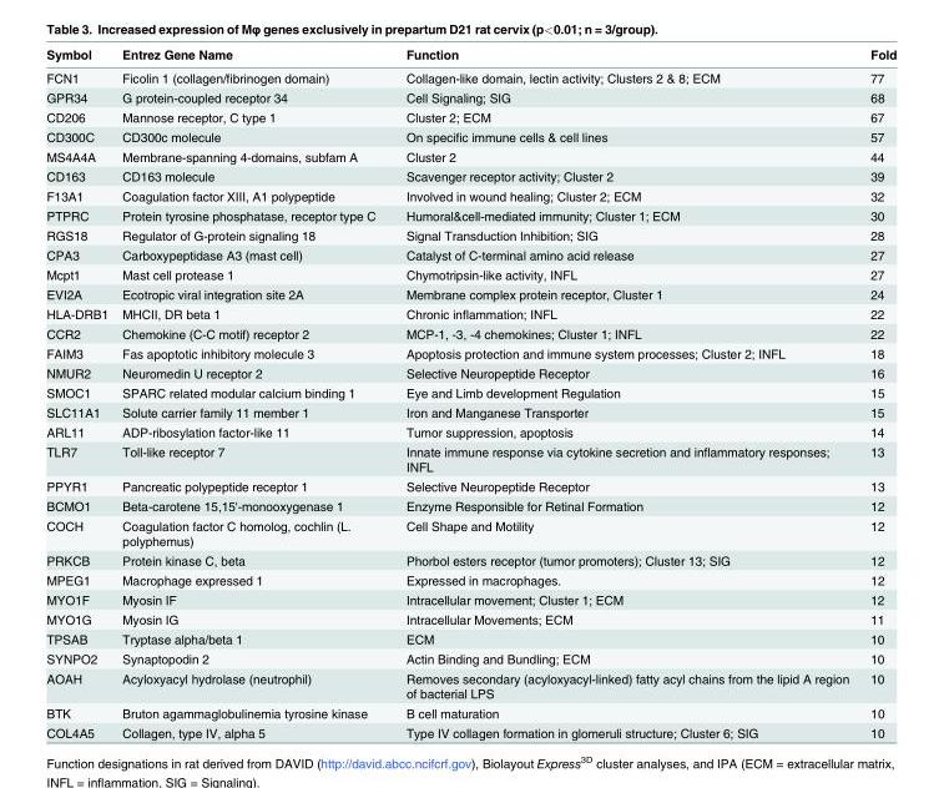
<table><thead><tr><td>Symbol</td><td>Entrez Gene Name</td><td>Function</td><td>Fold</td></tr></thead><tbody><tr><td>FCN1</td><td>Ficolin 1 (collagen/fibrinogen domain)</td><td>Collagen-like domain, lectin activity; Clusters 2 &amp; 8; ECM</td><td>77</td></tr><tr><td>GPR34</td><td>G protein-coupled receptor 34</td><td>Cell Signaling; SIG</td><td>68</td></tr><tr><td>CD206</td><td>Mannose receptor, C type 1</td><td>Cluster 2; ECM</td><td>67</td></tr><tr><td>CD300C</td><td>CD300c molecule</td><td>On specific immune cells &amp; cell lines</td><td>57</td></tr><tr><td>MS4A4A</td><td>Membrane-spanning 4-domains, subfam A</td><td>Cluster 2</td><td>44</td></tr><tr><td>CD163</td><td>CD163 molecule</td><td>Scavenger receptor activity; Cluster 2</td><td>39</td></tr><tr><td>F13A1</td><td>Coagulation factor XIII, A1 polypeptide</td><td>Involved in wound healing; Cluster 2; ECM</td><td>32</td></tr><tr><td>PTPRC</td><td>Protein tyrosine phosphatase, receptor type C</td><td>Humoral&amp;cell-mediated immunity; Cluster 1; ECM</td><td>30</td></tr><tr><td>RGS18</td><td>Regulator of G-protein signaling 18</td><td>Signal Transduction Inhibition; SIG</td><td>28</td></tr><tr><td>CPA3</td><td>Carboxypeptidase A3 (mast cell)</td><td>Catalyst of C-terminal amino acid release</td><td>27</td></tr><tr><td>Mcpt1</td><td>Mast cell protease 1</td><td>Chymotripsin-like activity, INFL</td><td>27</td></tr><tr><td>EVI2A</td><td>Ecotropic viral integration site 2A</td><td>Membrane complex protein receptor, Cluster 1</td><td>24</td></tr><tr><td>HLA-DRB1</td><td>MHCII, DR beta 1</td><td>Chronic inflammation; INFL</td><td>22</td></tr><tr><td>CCR2</td><td>Chemokine (C-C motif) receptor 2</td><td>MCP-1, -3, -4 chemokines; Cluster 1; INFL</td><td>22</td></tr><tr><td>FAIM3</td><td>Fas apoptotic inhibitory molecule 3</td><td>Apoptosis protection and immune system processes; Cluster 2; INFL</td><td>18</td></tr><tr><td>NMUR2</td><td>Neuromedin U receptor 2</td><td>Selective Neuropeptide Receptor</td><td>16</td></tr><tr><td>SMOC1</td><td>SPARC related modular calcium binding 1</td><td>Eye and Limb development Regulation</td><td>15</td></tr><tr><td>SLC11A1</td><td>Solute carrier family 11 member 1</td><td>Iron and Manganese Transporter</td><td>15</td></tr><tr><td>ARL11</td><td>ADP-ribosylation factor-like 11</td><td>Tumor suppression, apoptosis</td><td>14</td></tr><tr><td>TLR7</td><td>Toll-like receptor 7</td><td>Innate immune response via cytokine secretion and inflammatory responses; INFL</td><td>13</td></tr><tr><td>PPYR1</td><td>Pancreatic polypeptide receptor 1</td><td>Selective Neuropeptide Receptor</td><td>13</td></tr><tr><td>BCMO1</td><td>Beta-carotene 15,15&#x27;-monooxygenase 1</td><td>Enzyme Responsible for Retinal Formation</td><td>12</td></tr><tr><td>COCH</td><td>Coagulation factor C homolog, cochlin (L. polyphemus)</td><td>Cell Shape and Motility</td><td>12</td></tr><tr><td>PRKCB</td><td>Protein kinase C, beta</td><td>Phorbol esters receptor (tumor promoters); Cluster 13; SIG</td><td>12</td></tr><tr><td>MPEG1</td><td>Macrophage expressed 1</td><td>Expressed in macrophages.</td><td>12</td></tr><tr><td>MYO1F</td><td>Myosin IF</td><td>Intracellular movement; Cluster 1; ECM</td><td>12</td></tr><tr><td>MYO1G</td><td>Myosin IG</td><td>Intracellular Movements; ECM</td><td>11</td></tr><tr><td>TPSAB</td><td>Tryptase alpha/beta 1</td><td>ECM</td><td>10</td></tr><tr><td>SYNPO2</td><td>Synaptopodin 2</td><td>Actin Binding and Bundling; ECM</td><td>10</td></tr><tr><td>AOAH</td><td>Acyloxyacyl hydrolase (neutrophil)</td><td>Removes secondary (acyloxyacyl-linked) fatty acyl chains from the lipid A region of bacterial LPS</td><td>10</td></tr><tr><td>BTK</td><td>Bruton agammaglobulinemia tyrosine kinase</td><td>B cell maturation</td><td>10</td></tr><tr><td>COL4A5</td><td>Collagen, type IV, alpha 5</td><td>Type IV collagen formation in glomeruli structure; Cluster 6; SIG</td><td>10</td></tr></tbody></table>